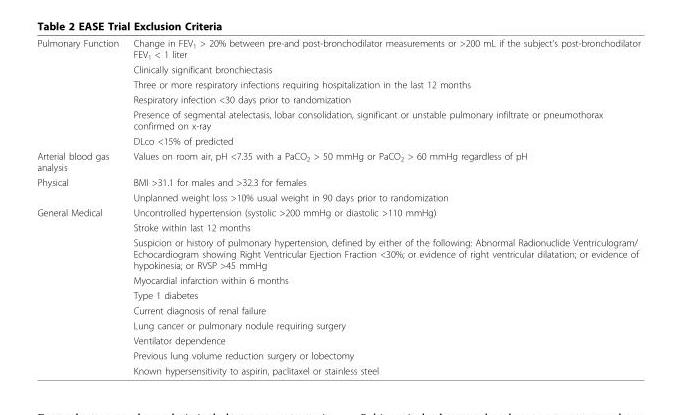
<table><tbody><tr><td rowspan="6">Pulmonary Function</td><td>Change in FEV<sub>1</sub> &gt; 20% between pre-and post-bronchodilator measurements or &gt;200 mL if the subject’s post-bronchodilator FEV<sub>1</sub> &lt; 1 liter</td></tr><tr><td>Clinically significant bronchiectasis</td></tr><tr><td>Three or more respiratory infections requiring hospitalization in the last 12 months</td></tr><tr><td>Respiratory infection &lt;30 days prior to randomization</td></tr><tr><td>Presence of segmental atelectasis, lobar consolidation, significant or unstable pulmonary infiltrate or pneumothorax confirmed on x-ray</td></tr><tr><td>DLco &lt;15% of predicted</td></tr><tr><td>Arterial blood gas analysis</td><td>Values on room air, pH &lt;7.35 with a PaCO<sub>2</sub> &gt; 50 mmHg or PaCO<sub>2</sub> &gt; 60 mmHg regardless of pH</td></tr><tr><td rowspan="2">Physical</td><td>BMI &gt;31.1 for males and &gt;32.3 for females</td></tr><tr><td>Unplanned weight loss &gt;10% usual weight in 90 days prior to randomization</td></tr><tr><td rowspan="10">General Medical</td><td>Uncontrolled hypertension (systolic &gt;200 mmHg or diastolic &gt;110 mmHg)</td></tr><tr><td>Stroke within last 12 months</td></tr><tr><td>Suspicion or history of pulmonary hypertension, defined by either of the following: Abnormal Radionuclide Ventriculogram/ Echocardiogram showing Right Ventricular Ejection Fraction &lt;30%; or evidence of right ventricular dilatation; or evidence of hypokinesia; or RVSP &gt;45 mmHg</td></tr><tr><td>Myocardial infarction within 6 months</td></tr><tr><td>Type 1 diabetes</td></tr><tr><td>Current diagnosis of renal failure</td></tr><tr><td>Lung cancer or pulmonary nodule requiring surgery</td></tr><tr><td>Ventilator dependence</td></tr><tr><td>Previous lung volume reduction surgery or lobectomy</td></tr><tr><td>Known hypersensitivity to aspirin, paclitaxel or stainless steel</td></tr></tbody></table>